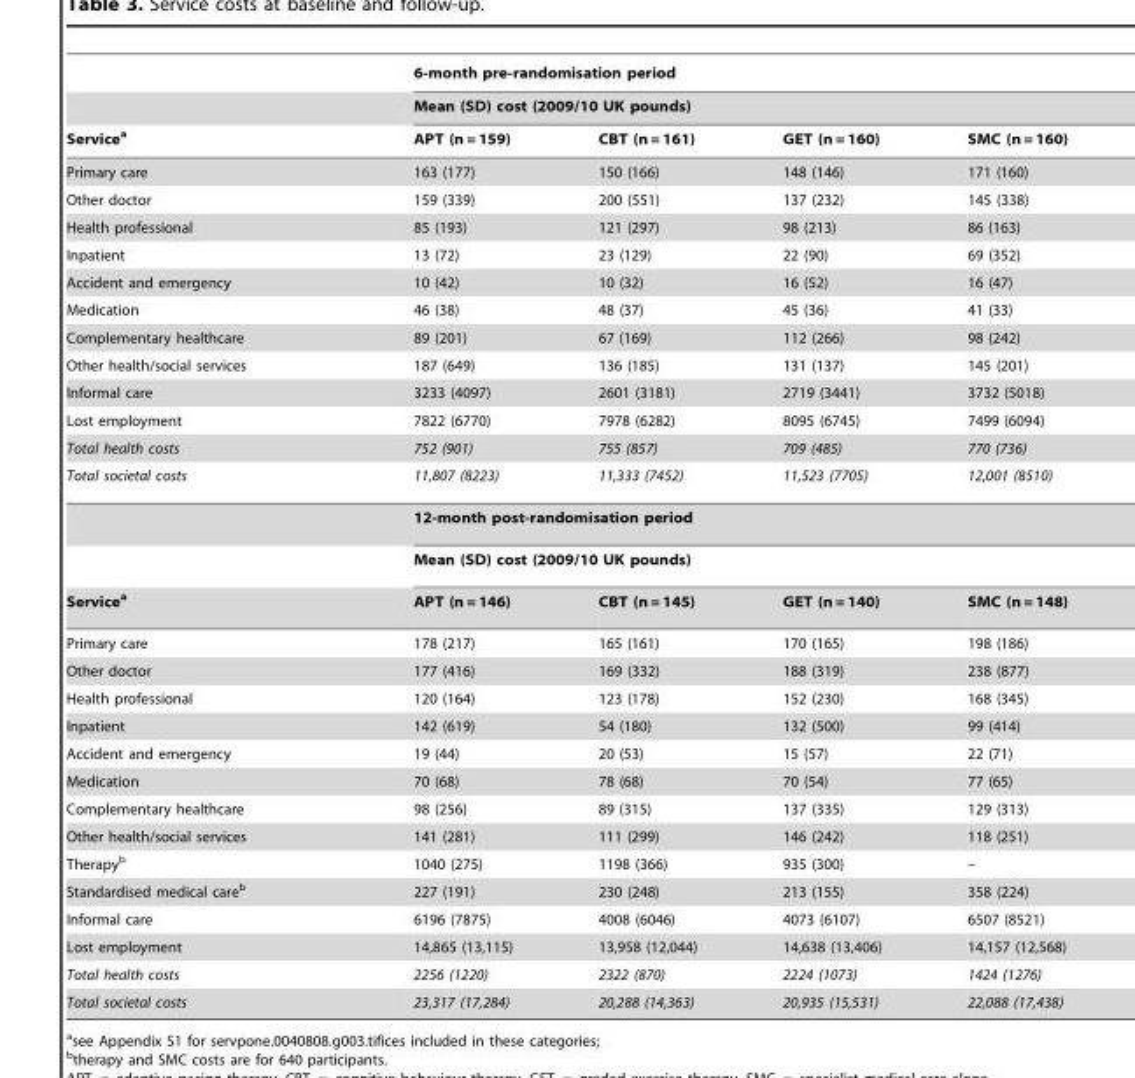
<table><thead><tr><td rowspan="3">Servicea</td><td rowspan="2" colspan="4">6-month pre-randomisation period Mean (SD) cost (2009/10 UK pounds)</td></tr><tr></tr><tr><td>APT (n = 159)</td><td>CBT (n = 161)</td><td>GET (n = 160)</td><td>SMC (n = 160)</td></tr></thead><tbody><tr><td>Primary care</td><td>163 (177)</td><td>150 (166)</td><td>148 (146)</td><td>171 (160)</td></tr><tr><td>Other doctor</td><td>159 (339)</td><td>200 (551)</td><td>137 (232)</td><td>145 (338)</td></tr><tr><td>Health professional</td><td>85 (193)</td><td>121 (297)</td><td>98 (213)</td><td>86 (163)</td></tr><tr><td>Inpatient</td><td>13 (72)</td><td>23 (129)</td><td>22 (90)</td><td>69 (352)</td></tr><tr><td>Accident and emergency</td><td>10 (42)</td><td>10 (32)</td><td>16 (52)</td><td>16 (47)</td></tr><tr><td>Medication</td><td>46 (38)</td><td>48 (37)</td><td>45 (36)</td><td>41 (33)</td></tr><tr><td>Complementary healthcare</td><td>89 (201)</td><td>67 (169)</td><td>112 (266)</td><td>98 (242)</td></tr><tr><td>Other health/social services</td><td>187 (649)</td><td>136 (185)</td><td>131 (137)</td><td>145 (201)</td></tr><tr><td>Informal care</td><td>3233 (4097)</td><td>2601 (3181)</td><td>2719 (3441)</td><td>3732 (5018)</td></tr><tr><td>Lost employment</td><td>7822 (6770)</td><td>7978 (6282)</td><td>8095 (6745)</td><td>7499 (6094)</td></tr><tr><td>Total health costs</td><td>752 (901)</td><td>755 (857)</td><td>709 (485)</td><td>770 (736)</td></tr><tr><td rowspan="3">Total societal costs</td><td>11,807 (8223)</td><td>11,333 (7452)</td><td>11,523 (7705)</td><td>12,001 (8510)</td></tr><tr><td colspan="4">12-month post-randomisation period</td></tr><tr><td colspan="4">Mean (SD) cost (2009/10 UK pounds)</td></tr><tr><td>Servicea</td><td>APT (n = 146)</td><td>CBT (n = 145)</td><td>GET (n = 140)</td><td>SMC (n = 148)</td></tr><tr><td>Primary care</td><td>178 (217)</td><td>165 (161)</td><td>170 (165)</td><td>198 (186)</td></tr><tr><td>Other doctor</td><td>177 (416)</td><td>169 (332)</td><td>188 (319)</td><td>238 (877)</td></tr><tr><td>Health professional</td><td>120 (164)</td><td>123 (178)</td><td>152 (230)</td><td>168 (345)</td></tr><tr><td>Inpatient</td><td>142 (619)</td><td>54 (180)</td><td>132 (500)</td><td>99 (414)</td></tr><tr><td>Accident and emergency</td><td>19 (44)</td><td>20 (53)</td><td>15 (57)</td><td>22 (71)</td></tr><tr><td>Medication</td><td>70 (68)</td><td>78 (68)</td><td>70 (54)</td><td>77 (65)</td></tr><tr><td>Complementary healthcare</td><td>98 (256)</td><td>89 (315)</td><td>137 (335)</td><td>129 (313)</td></tr><tr><td>Other health/social services</td><td>141 (281)</td><td>111 (299)</td><td>146 (242)</td><td>118 (251)</td></tr><tr><td>Therapy<sup>b</sup></td><td>1040 (275)</td><td>1198 (366)</td><td>935 (300)</td><td>–</td></tr><tr><td>Standardised medical care<sup>b</sup></td><td>227 (191)</td><td>230 (248)</td><td>213 (155)</td><td>358 (224)</td></tr><tr><td>Informal care</td><td>6196 (7875)</td><td>4008 (6046)</td><td>4073 (6107)</td><td>6507 (8521)</td></tr><tr><td>Lost employment</td><td>14,865 (13,115)</td><td>13,958 (12,044)</td><td>14,638 (13,406)</td><td>14,157 (12,568)</td></tr><tr><td>Total health costs</td><td>2256 (1220)</td><td>2322 (870)</td><td>2224 (1073)</td><td>1424 (1276)</td></tr><tr><td>Total societal costs</td><td>23,317 (17,284)</td><td>20,288 (14,363)</td><td>20,935 (15,531)</td><td>22,088 (17,438)</td></tr></tbody></table>